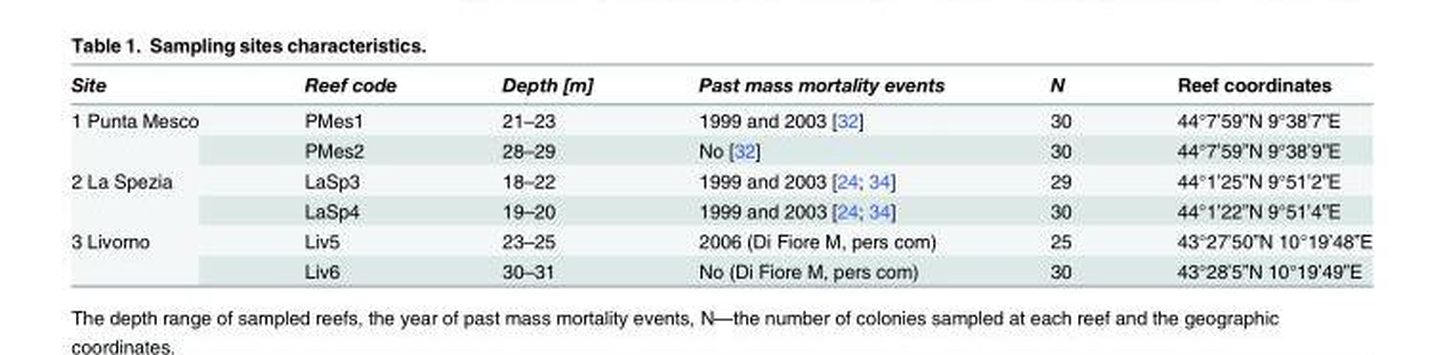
<table><thead><tr><td>Site</td><td>Reef code</td><td>Depth [m]</td><td>Past mass mortality events</td><td>N</td><td>Reef coordinates</td></tr></thead><tbody><tr><td rowspan="2">1 Punta Mesco</td><td>PMes1</td><td>21–23</td><td>1999 and 2003 [32]</td><td>30</td><td>44°7’59”N 9°38’7”E</td></tr><tr><td>PMes2</td><td>28–29</td><td>No [32]</td><td>30</td><td>44°7’59”N 9°38’9”E</td></tr><tr><td rowspan="2">2 La Spezia</td><td>LaSp3</td><td>18–22</td><td>1999 and 2003 [24; 34]</td><td>29</td><td>44°1’25”N 9°51’2”E</td></tr><tr><td>LaSp4</td><td>19–20</td><td>1999 and 2003 [24; 34]</td><td>30</td><td>44°1’22”N 9°51’4”E</td></tr><tr><td rowspan="2">3 Livorno</td><td>Liv5</td><td>23–25</td><td>2006 (Di Fiore M, pers com)</td><td>25</td><td>43°27’50”N 10°19’48”E</td></tr><tr><td>Liv6</td><td>30–31</td><td>No (Di Fiore M, pers com)</td><td>30</td><td>43°28’5”N 10°19’49”E</td></tr></tbody></table>